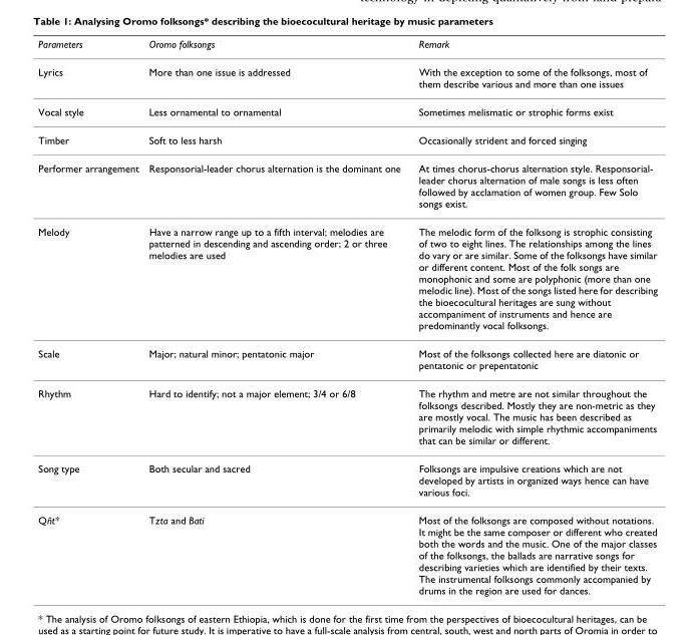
<table><thead><tr><td>Parameters</td><td>Oromo folksongs</td><td>Remark</td></tr></thead><tbody><tr><td>Lyrics</td><td>More than one issue is addressed</td><td>With the exception to some of the folksongs, most of them describe various and more than one issues</td></tr><tr><td>Vocal style</td><td>Less ornamental to ornamental</td><td>Sometimes melismatic or strophic forms exist</td></tr><tr><td>Timber</td><td>Soft to less harsh</td><td>Occasionally strident and forced singing</td></tr><tr><td>Performer arrangement</td><td>Responsorial-leader chorus alternation is the dominant one</td><td>At times chorus-chorus alternation style. Responsorial- leader chorus alternation of male songs is less often followed by acclamation of women group. Few Solo songs exist.</td></tr><tr><td>Melody</td><td>Have a narrow range up to a fifth interval; melodies are patterned in descending and ascending order; 2 or three melodies are used</td><td>The melodic form of the folksong is strophic consisting of two to eight lines. The relationships among the lines do vary or are similar. Some of the folksongs have similar or different content. Most of the folk songs are monophonic and some are polyphonic (more than one melodic line). Most of the songs listed here for describing the bioecocultural heritages are sung without accompaniment of instruments and hence are predominantly vocal folksongs.</td></tr><tr><td>Scale</td><td>Major; natural minor; pentatonic major</td><td>Most of the folksongs collected here are diatonic or pentatonic or prepentatonic</td></tr><tr><td>Rhythm</td><td>Hard to identify; not a major element; 3/4 or 6/8</td><td>The rhythm and metre are not similar throughout the folksongs described. Mostly they are non-metric as they are mostly vocal. The music has been described as primarily melodic with simple rhythmic accompaniments that can be similar or different.</td></tr><tr><td>Song type</td><td>Both secular and sacred</td><td>Folksongs are impulsive creations which are not developed by artists in organized ways hence can have various foci.</td></tr><tr><td>Qñt*</td><td>Tzta and Bati</td><td>Most of the folksongs are composed without notations. It might be the same composer or different who created both the words and the music. One of the major classes of the folksongs, the ballads are narrative songs for describing varieties which are identified by their texts. The instrumental folksongs commonly accompanied by drums in the region are used for dances.</td></tr></tbody></table>